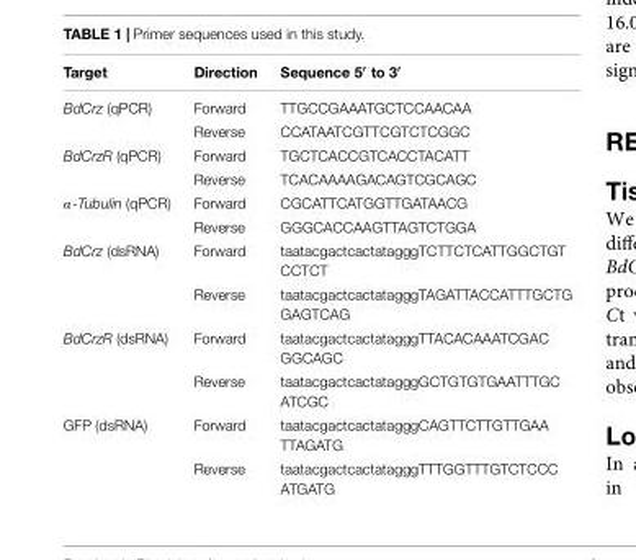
<table><thead><tr><td>Target</td><td>Direction</td><td>Sequence 5′ to 3′</td></tr></thead><tbody><tr><td rowspan="2">BdCrz (qPCR)</td><td>Forward</td><td>TTGCCGAAATGCTCCAACAA</td></tr><tr><td>Reverse</td><td>CCATAATCGTTCGTCTCGGC</td></tr><tr><td rowspan="2">BdCrzR (qPCR)</td><td>Forward</td><td>TGCTCACCGTCACCTACATT</td></tr><tr><td>Reverse</td><td>TCACAAAAGACAGTCGCAGC</td></tr><tr><td rowspan="2">α-Tubulin (qPCR)</td><td>Forward</td><td>CGCATTCATGGTTGATAACG</td></tr><tr><td>Reverse</td><td>GGGCACCAAGTTAGTCTGGA</td></tr><tr><td rowspan="2">BdCrz (dsRNA)</td><td>Forward</td><td>taatacgactcactatagggTCTTCTCATTGGCTGT CCTCT</td></tr><tr><td>Reverse</td><td>taatacgactcactatagggTAGATTACCATTTGCTG GAGTCAG</td></tr><tr><td rowspan="2">BdCrzR (dsRNA)</td><td>Forward</td><td>taatacgactcactatagggTTACACAAATCGAC GGCAGC</td></tr><tr><td>Reverse</td><td>taatacgactcactatagggGCTGTGTGAATTTGC ATCGC</td></tr><tr><td rowspan="2">GFP (dsRNA)</td><td>Forward</td><td>taatacgactcactatagggCAGTTCTTGTTGAA TTAGATG</td></tr><tr><td>Reverse</td><td>taatacgactcactatagggTTTGGTTTGTCTCCC ATGATG</td></tr></tbody></table>